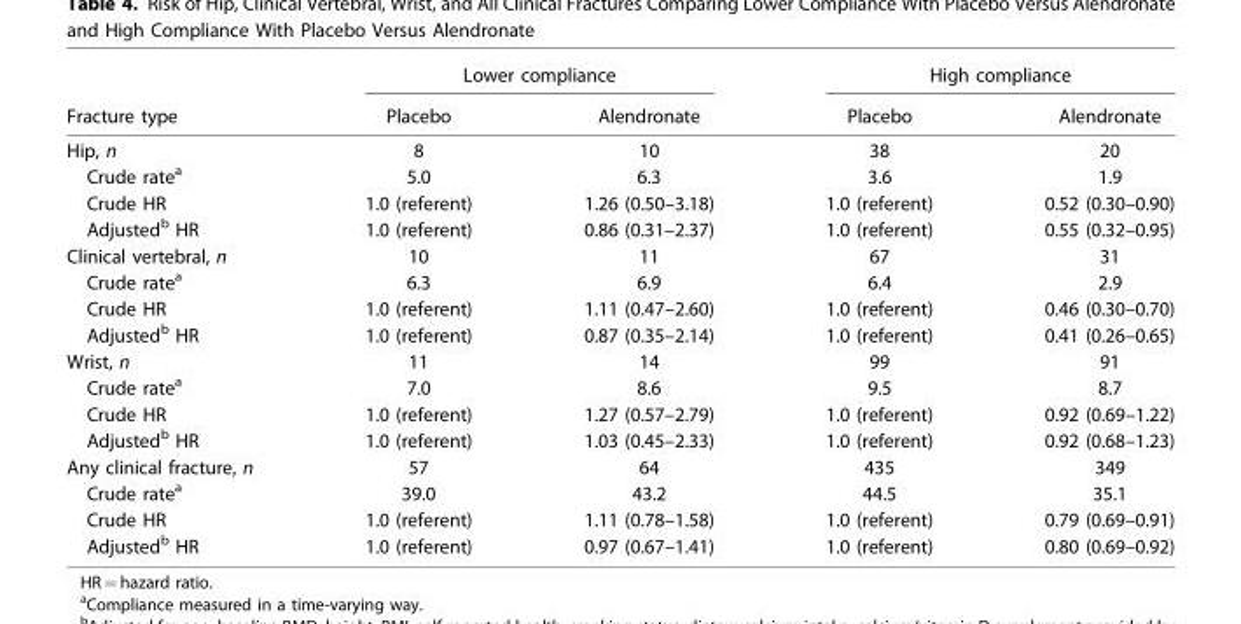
<table><thead><tr><td rowspan="2">Fracture type</td><td colspan="2">Lower compliance</td><td colspan="2">High compliance</td></tr><tr><td>Placebo</td><td>Alendronate</td><td>Placebo</td><td>Alendronate</td></tr></thead><tbody><tr><td>Hip, n</td><td>8</td><td>10</td><td>38</td><td>20</td></tr><tr><td>Crude rate<sup>a</sup></td><td>5.0</td><td>6.3</td><td>3.6</td><td>1.9</td></tr><tr><td>Crude HR</td><td>1.0 (referent)</td><td>1.26 (0.50–3.18)</td><td>1.0 (referent)</td><td>0.52 (0.30–0.90)</td></tr><tr><td>Adjusted<sup>b</sup> HR</td><td>1.0 (referent)</td><td>0.86 (0.31–2.37)</td><td>1.0 (referent)</td><td>0.55 (0.32–0.95)</td></tr><tr><td>Clinical vertebral, n</td><td>10</td><td>11</td><td>67</td><td>31</td></tr><tr><td>Crude rate<sup>a</sup></td><td>6.3</td><td>6.9</td><td>6.4</td><td>2.9</td></tr><tr><td>Crude HR</td><td>1.0 (referent)</td><td>1.11 (0.47–2.60)</td><td>1.0 (referent)</td><td>0.46 (0.30–0.70)</td></tr><tr><td>Adjusted<sup>b</sup> HR</td><td>1.0 (referent)</td><td>0.87 (0.35–2.14)</td><td>1.0 (referent)</td><td>0.41 (0.26–0.65)</td></tr><tr><td>Wrist, n</td><td>11</td><td>14</td><td>99</td><td>91</td></tr><tr><td>Crude rate<sup>a</sup></td><td>7.0</td><td>8.6</td><td>9.5</td><td>8.7</td></tr><tr><td>Crude HR</td><td>1.0 (referent)</td><td>1.27 (0.57–2.79)</td><td>1.0 (referent)</td><td>0.92 (0.69–1.22)</td></tr><tr><td>Adjusted<sup>b</sup> HR</td><td>1.0 (referent)</td><td>1.03 (0.45–2.33)</td><td>1.0 (referent)</td><td>0.92 (0.68–1.23)</td></tr><tr><td>Any clinical fracture, n</td><td>57</td><td>64</td><td>435</td><td>349</td></tr><tr><td>Crude rate<sup>a</sup></td><td>39.0</td><td>43.2</td><td>44.5</td><td>35.1</td></tr><tr><td>Crude HR</td><td>1.0 (referent)</td><td>1.11 (0.78–1.58)</td><td>1.0 (referent)</td><td>0.79 (0.69–0.91)</td></tr><tr><td>Adjusted<sup>b</sup> HR</td><td>1.0 (referent)</td><td>0.97 (0.67–1.41)</td><td>1.0 (referent)</td><td>0.80 (0.69–0.92)</td></tr></tbody></table>